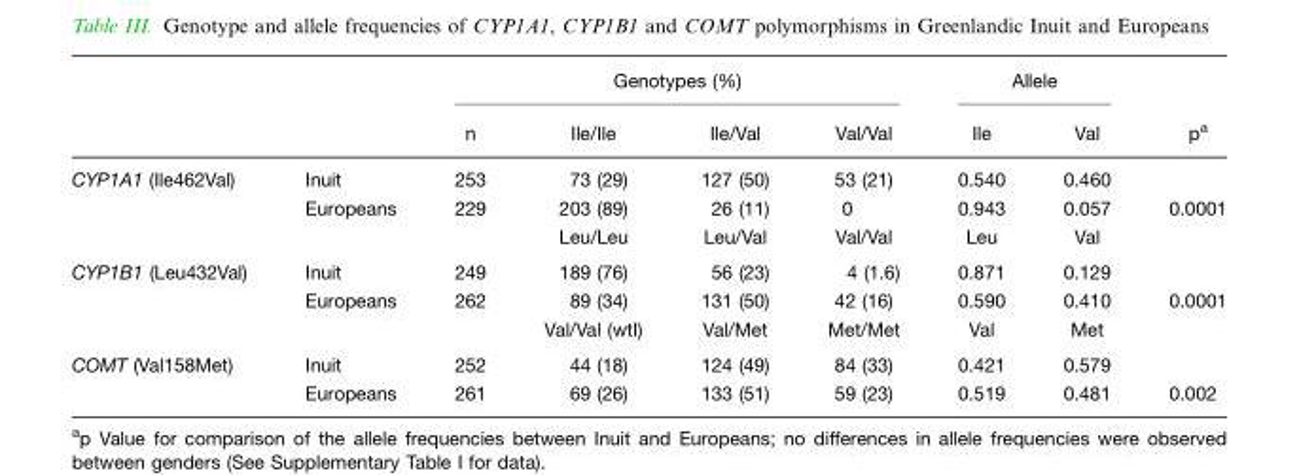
<table><thead><tr><td rowspan="2"></td><td rowspan="2"></td><td colspan="4">Genotypes (%)</td><td colspan="2">Allele</td><td rowspan="2">p<sup>a</sup></td></tr><tr><td>n</td><td>Ile/Ile</td><td>Ile/Val</td><td>Val/Val</td><td>Ile</td><td>Val</td></tr></thead><tbody><tr><td rowspan="3">CYP1A1 (Ile462Val)</td><td>Inuit</td><td>253</td><td>73 (29)</td><td>127 (50)</td><td>53 (21)</td><td>0.540</td><td>0.460</td><td></td></tr><tr><td>Europeans</td><td>229</td><td>203 (89)</td><td>26 (11)</td><td>0</td><td>0.943</td><td>0.057</td><td>0.0001</td></tr><tr><td></td><td></td><td>Leu/Leu</td><td>Leu/Val</td><td>Val/Val</td><td>Leu</td><td>Val</td><td></td></tr><tr><td rowspan="3">CYP1B1 (Leu432Val)</td><td>Inuit</td><td>249</td><td>189 (76)</td><td>56 (23)</td><td>4 (1.6)</td><td>0.871</td><td>0.129</td><td></td></tr><tr><td>Europeans</td><td>262</td><td>89 (34)</td><td>131 (50)</td><td>42 (16)</td><td>0.590</td><td>0.410</td><td>0.0001</td></tr><tr><td></td><td></td><td>Val/Val (wtI)</td><td>Val/Met</td><td>Met/Met</td><td>Val</td><td>Met</td><td></td></tr><tr><td rowspan="2">COMT (Val158Met)</td><td>Inuit</td><td>252</td><td>44 (18)</td><td>124 (49)</td><td>84 (33)</td><td>0.421</td><td>0.579</td><td></td></tr><tr><td>Europeans</td><td>261</td><td>69 (26)</td><td>133 (51)</td><td>59 (23)</td><td>0.519</td><td>0.481</td><td>0.002</td></tr></tbody></table>